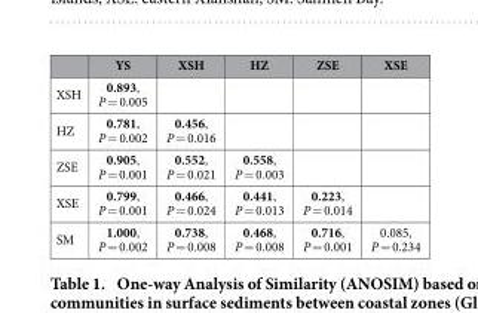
<table><thead><tr><td></td><td>YS</td><td>XSH</td><td>HZ</td><td>ZSE</td><td>XSE</td></tr></thead><tbody><tr><td>XSH</td><td>0.893, P = 0.005</td><td></td><td></td><td></td><td></td></tr><tr><td>HZ</td><td>0.781, P = 0.002</td><td>0.456, P = 0.016</td><td></td><td></td><td></td></tr><tr><td>ZSE</td><td>0.905, P = 0.001</td><td>0.552, P = 0.021</td><td>0.558, P = 0.003</td><td></td><td></td></tr><tr><td>XSE</td><td>0.799, P = 0.001</td><td>0.466, P = 0.024</td><td>0.441, P = 0.013</td><td>0.223, P = 0.014</td><td></td></tr><tr><td>SM</td><td>1.000, P = 0.002</td><td>0.738, P = 0.008</td><td>0.468, P = 0.008</td><td>0.716, P = 0.001</td><td>0.085, P = 0.234</td></tr></tbody></table>